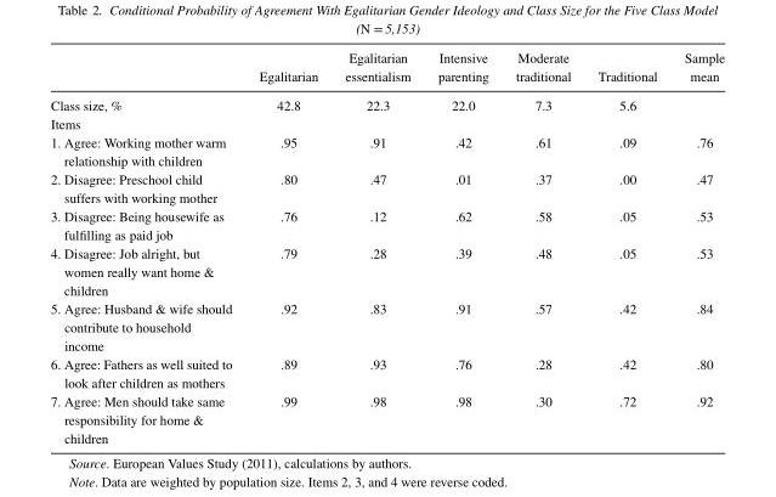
<table><thead><tr><td></td><td>Egalitarian</td><td>Egalitarian essentialism</td><td>Intensive parenting</td><td>Moderate traditional</td><td>Traditional</td><td>Sample mean</td></tr></thead><tbody><tr><td>Class size, %</td><td>42.8</td><td>22.3</td><td>22.0</td><td>7.3</td><td>5.6</td><td></td></tr><tr><td colspan="7">Items</td></tr><tr><td>1. Agree: Working mother warm relationship with children</td><td>.95</td><td>.91</td><td>.42</td><td>.61</td><td>.09</td><td>.76</td></tr><tr><td>2. Disagree: Preschool child suffers with working mother</td><td>.80</td><td>.47</td><td>.01</td><td>.37</td><td>.00</td><td>.47</td></tr><tr><td>3. Disagree: Being housewife as fulfilling as paid job</td><td>.76</td><td>.12</td><td>.62</td><td>.58</td><td>.05</td><td>.53</td></tr><tr><td>4. Disagree: Job alright, but women really want home &amp; children</td><td>.79</td><td>.28</td><td>.39</td><td>.48</td><td>.05</td><td>.53</td></tr><tr><td>5. Agree: Husband &amp; wife should contribute to household income</td><td>.92</td><td>.83</td><td>.91</td><td>.57</td><td>.42</td><td>.84</td></tr><tr><td>6. Agree: Fathers as well suited to look after children as mothers</td><td>.89</td><td>.93</td><td>.76</td><td>.28</td><td>.42</td><td>.80</td></tr><tr><td>7. Agree: Men should take same responsibility for home &amp; children</td><td>.99</td><td>.98</td><td>.98</td><td>.30</td><td>.72</td><td>.92</td></tr></tbody></table>